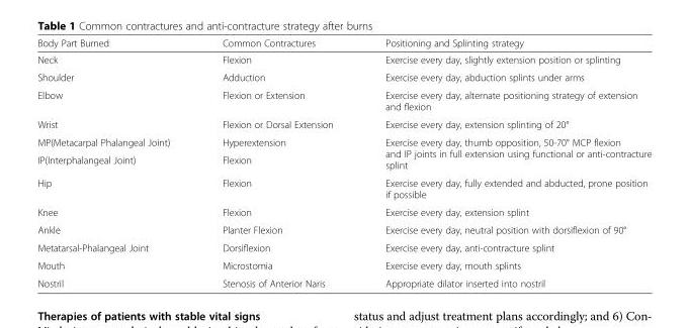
<table><thead><tr><td>Body Part Burned</td><td>Common Contractures</td><td>Positioning and Splinting strategy</td></tr></thead><tbody><tr><td>Neck</td><td>Flexion</td><td>Exercise every day, slightly extension position or splinting</td></tr><tr><td>Shoulder</td><td>Adduction</td><td>Exercise every day, abduction splints under arms</td></tr><tr><td>Elbow</td><td>Flexion or Extension</td><td>Exercise every day, alternate positioning strategy of extension and flexion</td></tr><tr><td>Wrist</td><td>Flexion or Dorsal Extension</td><td>Exercise every day, extension splinting of 20°</td></tr><tr><td>MP(Metacarpal Phalangeal Joint)</td><td>Hyperextension</td><td rowspan="2">Exercise every day, thumb opposition, 50-70° MCP flexion and IP joints in full extension using functional or anti-contracture splint</td></tr><tr><td>IP(Interphalangeal Joint)</td><td>Flexion</td></tr><tr><td>Hip</td><td>Flexion</td><td>Exercise every day, fully extended and abducted, prone position if possible</td></tr><tr><td>Knee</td><td>Flexion</td><td>Exercise every day, extension splint</td></tr><tr><td>Ankle</td><td>Planter Flexion</td><td>Exercise every day, neutral position with dorsiflexion of 90°</td></tr><tr><td>Metatarsal-Phalangeal Joint</td><td>Dorsiflexion</td><td>Exercise every day, anti-contracture splint</td></tr><tr><td>Mouth</td><td>Microstomia</td><td>Exercise every day, mouth splints</td></tr><tr><td>Nostril</td><td>Stenosis of Anterior Naris</td><td>Appropriate dilator inserted into nostril</td></tr></tbody></table>